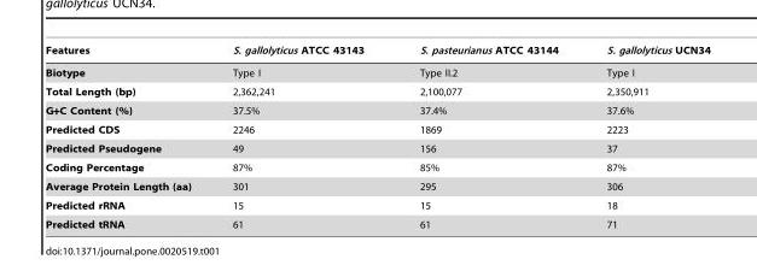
<table><thead><tr><td>Features</td><td>S. gallolyticus ATCC 43143</td><td>S. pasteurianus ATCC 43144</td><td>S. gallolyticus UCN34</td></tr></thead><tbody><tr><td>Biotype</td><td>Type I</td><td>Type II.2</td><td>Type I</td></tr><tr><td>Total Length (bp)</td><td>2,362,241</td><td>2,100,077</td><td>2,350,911</td></tr><tr><td>G+C Content (%)</td><td>37.5%</td><td>37.4%</td><td>37.6%</td></tr><tr><td>Predicted CDS</td><td>2246</td><td>1869</td><td>2223</td></tr><tr><td>Predicted Pseudogene</td><td>49</td><td>156</td><td>37</td></tr><tr><td>Coding Percentage</td><td>87%</td><td>85%</td><td>87%</td></tr><tr><td>Average Protein Length (aa)</td><td>301</td><td>295</td><td>306</td></tr><tr><td>Predicted rRNA</td><td>15</td><td>15</td><td>18</td></tr><tr><td>Predicted tRNA</td><td>61</td><td>61</td><td>71</td></tr></tbody></table>